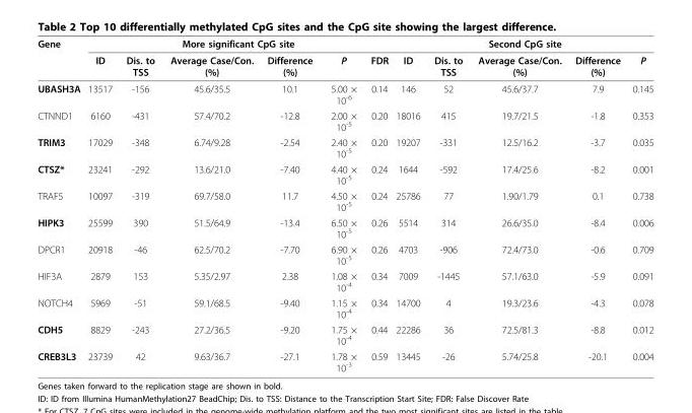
<table><thead><tr><td rowspan="2">Gene</td><td colspan="6">More significant CpG site</td><td colspan="5">Second CpG site</td></tr><tr><td>ID</td><td>Dis. to TSS</td><td>Average Case/Con. (%)</td><td>Difference (%)</td><td>P</td><td>FDR</td><td>ID</td><td>Dis. to TSS</td><td>Average Case/Con. (%)</td><td>Difference (%)</td><td>P</td></tr></thead><tbody><tr><td>UBASH3A</td><td>13517</td><td>-156</td><td>45.6/35.5</td><td>10.1</td><td>5.00 × 10<sup>-6</sup></td><td>0.14</td><td>146</td><td>52</td><td>45.6/37.7</td><td>7.9</td><td>0.145</td></tr><tr><td>CTNND1</td><td>6160</td><td>-431</td><td>57.4/70.2</td><td>-12.8</td><td>2.00 × 10<sup>-5</sup></td><td>0.20</td><td>18016</td><td>415</td><td>19.7/21.5</td><td>-1.8</td><td>0.353</td></tr><tr><td>TRIM3</td><td>17029</td><td>-348</td><td>6.74/9.28</td><td>-2.54</td><td>2.40 × 10<sup>-5</sup></td><td>0.20</td><td>19207</td><td>-331</td><td>12.5/16.2</td><td>-3.7</td><td>0.035</td></tr><tr><td>CTSZ*</td><td>23241</td><td>-292</td><td>13.6/21.0</td><td>-7.40</td><td>4.40 × 10<sup>-5</sup></td><td>0.24</td><td>1644</td><td>-592</td><td>17.4/25.6</td><td>-8.2</td><td>0.001</td></tr><tr><td>TRAF5</td><td>10097</td><td>-319</td><td>69.7/58.0</td><td>11.7</td><td>4.50 × 10<sup>-5</sup></td><td>0.24</td><td>25786</td><td>77</td><td>1.90/1.79</td><td>0.1</td><td>0.738</td></tr><tr><td>HIPK3</td><td>25599</td><td>390</td><td>51.5/64.9</td><td>-13.4</td><td>6.50 × 10<sup>-5</sup></td><td>0.26</td><td>5514</td><td>314</td><td>26.6/35.0</td><td>-8.4</td><td>0.006</td></tr><tr><td>DPCR1</td><td>20918</td><td>-46</td><td>62.5/70.2</td><td>-7.70</td><td>6.90 × 10<sup>-5</sup></td><td>0.26</td><td>4703</td><td>-906</td><td>72.4/73.0</td><td>-0.6</td><td>0.709</td></tr><tr><td>HIF3A</td><td>2879</td><td>153</td><td>5.35/2.97</td><td>2.38</td><td>1.08 × 10<sup>-4</sup></td><td>0.34</td><td>7009</td><td>-1445</td><td>57.1/63.0</td><td>-5.9</td><td>0.091</td></tr><tr><td>NOTCH4</td><td>5969</td><td>-51</td><td>59.1/68.5</td><td>-9.40</td><td>1.15 × 10<sup>-4</sup></td><td>0.34</td><td>14700</td><td>4</td><td>19.3/23.6</td><td>-4.3</td><td>0.078</td></tr><tr><td>CDH5</td><td>8829</td><td>-243</td><td>27.2/36.5</td><td>-9.20</td><td>1.75 × 10<sup>-4</sup></td><td>0.44</td><td>22286</td><td>36</td><td>72.5/81.3</td><td>-8.8</td><td>0.012</td></tr><tr><td>CREB3L3</td><td>23739</td><td>42</td><td>9.63/36.7</td><td>-27.1</td><td>1.78 × 10<sup>-3</sup></td><td>0.59</td><td>13445</td><td>-26</td><td>5.74/25.8</td><td>-20.1</td><td>0.004</td></tr></tbody></table>